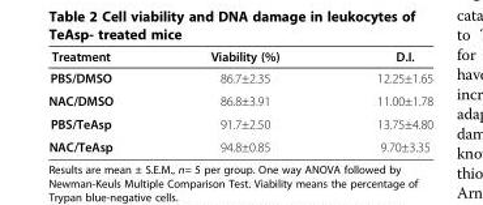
<table><thead><tr><td>Treatment</td><td>Viability (%)</td><td>D.I.</td></tr></thead><tbody><tr><td>PBS/DMSO</td><td>86.7±2.35</td><td>12.25±1.65</td></tr><tr><td>NAC/DMSO</td><td>86.8±3.91</td><td>11.00±1.78</td></tr><tr><td>PBS/TeAsp</td><td>91.7±2.50</td><td>13.75±4.80</td></tr><tr><td>NAC/TeAsp</td><td>94.8±0.85</td><td>9.70±3.35</td></tr></tbody></table>